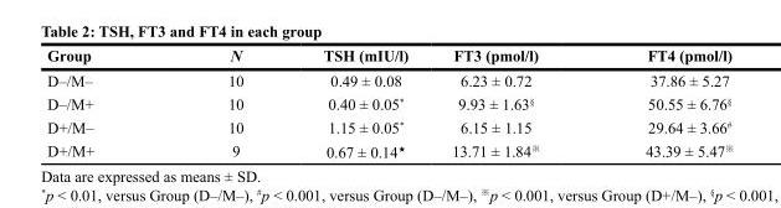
<table><thead><tr><td>Group</td><td>N</td><td>TSH (mIU/l)</td><td>FT3 (pmol/l)</td><td>FT4 (pmol/l)</td></tr></thead><tbody><tr><td>D–/M–</td><td>10</td><td>0.49 ± 0.08</td><td>6.23 ± 0.72</td><td>37.86 ± 5.27</td></tr><tr><td>D–/M+</td><td>10</td><td>0.40 ± 0.05*</td><td>9.93 ± 1.63<sup>§</sup></td><td>50.55 ± 6.76<sup>§</sup></td></tr><tr><td>D+/M–</td><td>10</td><td>1.15 ± 0.05*</td><td>6.15 ± 1.15</td><td>29.64 ± 3.66<sup>#</sup></td></tr><tr><td>D+/M+</td><td>9</td><td>0.67 ± 0.14<sup>★</sup></td><td>13.71 ± 1.84<sup>※</sup></td><td>43.39 ± 5.47<sup>※</sup></td></tr></tbody></table>